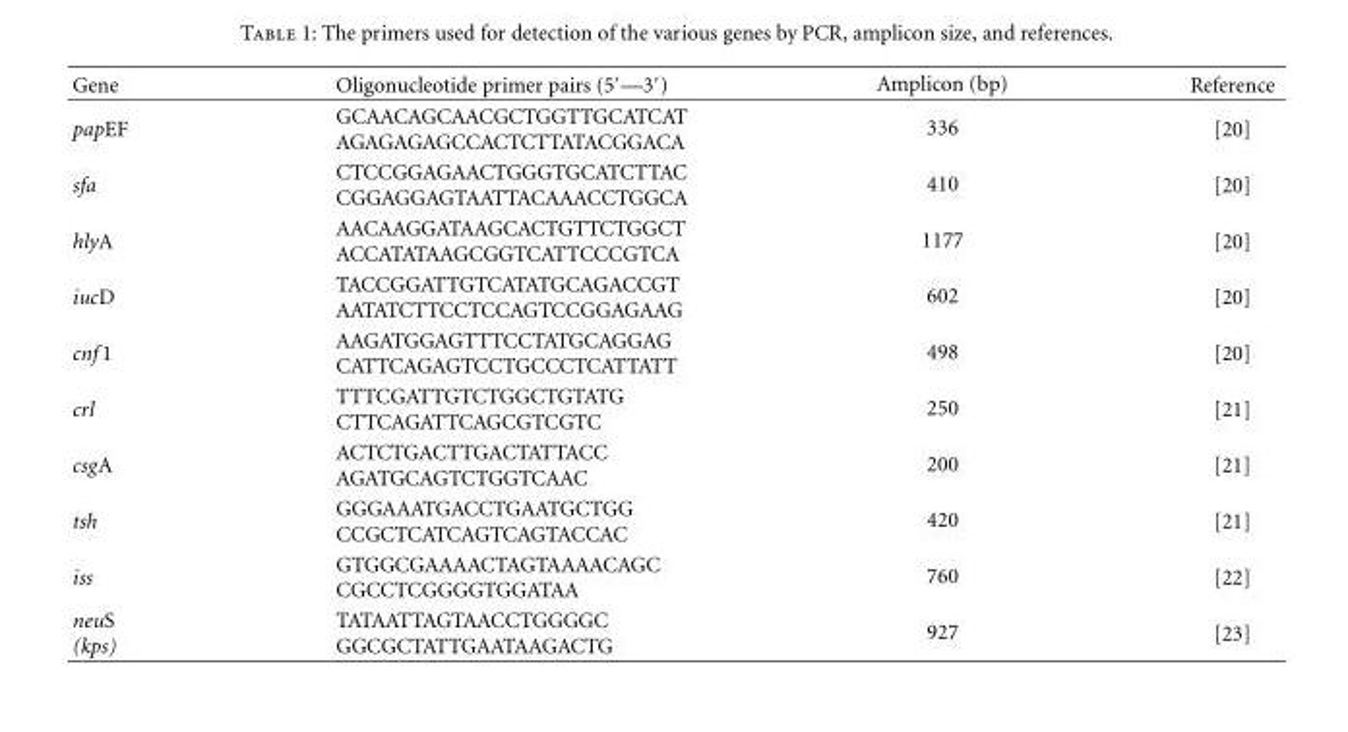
<table><thead><tr><td>Gene</td><td>Oligonucleotide primer pairs (5′—3′)</td><td>Amplicon (bp)</td><td>Reference</td></tr></thead><tbody><tr><td>papEF</td><td>GCAACAGCAACGCTGGTTGCATCAT AGAGAGAGCCACTCTTATACGGACA</td><td>336</td><td>[20]</td></tr><tr><td>sfa</td><td>CTCCGGAGAACTGGGTGCATCTTAC CGGAGGAGTAATTACAAACCTGGCA</td><td>410</td><td>[20]</td></tr><tr><td>hlyA</td><td>AACAAGGATAAGCACTGTTCTGGCT ACCATATAAGCGGTCATTCCCGTCA</td><td>1177</td><td>[20]</td></tr><tr><td>iucD</td><td>TACCGGATTGTCATATGCAGACCGT AATATCTTCCTCCAGTCCGGAGAAG</td><td>602</td><td>[20]</td></tr><tr><td>cnf 1</td><td>AAGATGGAGTTTCCTATGCAGGAG CATTCAGAGTCCTGCCCTCATTATT</td><td>498</td><td>[20]</td></tr><tr><td>crl</td><td>TTTCGATTGTCTGGCTGTATG CTTCAGATTCAGCGTCGTC</td><td>250</td><td>[21]</td></tr><tr><td>csgA</td><td>ACTCTGACTTGACTATTACC AGATGCAGTCTGGTCAAC</td><td>200</td><td>[21]</td></tr><tr><td>tsh</td><td>GGGAAATGACCTGAATGCTGG CCGCTCATCAGTCAGTACCAC</td><td>420</td><td>[21]</td></tr><tr><td>iss</td><td>GTGGCGAAAACTAGTAAAACAGC CGCCTCGGGGTGGATAA</td><td>760</td><td>[22]</td></tr><tr><td>neuS (kps)</td><td>TATAATTAGTAACCTGGGGC GGCGCTATTGAATAAGACTG</td><td>927</td><td>[23]</td></tr></tbody></table>